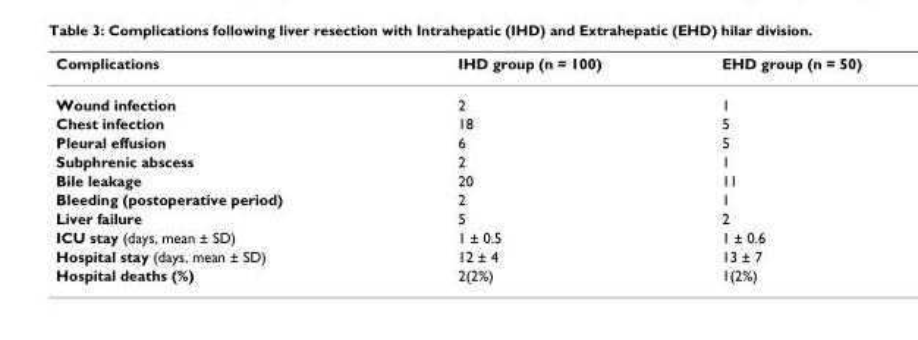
<table><thead><tr><td>Complications</td><td>IHD group (n = 100)</td><td>EHD group (n = 50)</td></tr></thead><tbody><tr><td>Wound infection</td><td>2</td><td>1</td></tr><tr><td>Chest infection</td><td>18</td><td>5</td></tr><tr><td>Pleural effusion</td><td>6</td><td>5</td></tr><tr><td>Subphrenic abscess</td><td>2</td><td>1</td></tr><tr><td>Bile leakage</td><td>20</td><td>11</td></tr><tr><td>Bleeding (postoperative period)</td><td>2</td><td>1</td></tr><tr><td>Liver failure</td><td>5</td><td>2</td></tr><tr><td>ICU stay (days, mean ± SD)</td><td>1 ± 0.5</td><td>1 ± 0.6</td></tr><tr><td>Hospital stay (days, mean ± SD)</td><td>12 ± 4</td><td>13 ± 7</td></tr><tr><td>Hospital deaths (%)</td><td>2(2%)</td><td>1(2%)</td></tr></tbody></table>